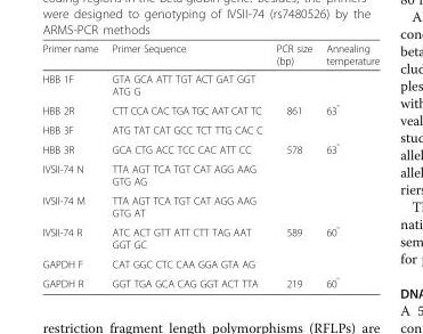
<table><thead><tr><td>Primer name</td><td>Primer Sequence</td><td>PCR size (bp)</td><td>Annealing temperature</td></tr></thead><tbody><tr><td>HBB 1F</td><td>GTA GCA ATT TGT ACT GAT GGT ATG G</td><td></td><td></td></tr><tr><td>HBB 2R</td><td>CTT CCA CAC TGA TGC AAT CAT TC</td><td>861</td><td>63<sup>°</sup></td></tr><tr><td>HBB 3F</td><td>ATG TAT CAT GCC TCT TTG CAC C</td><td></td><td></td></tr><tr><td>HBB 3R</td><td>GCA CTG ACC TCC CAC ATT CC</td><td>578</td><td>63<sup>°</sup></td></tr><tr><td>IVSII-74 N</td><td>TTA AGT TCA TGT CAT AGG AAG GTG AG</td><td></td><td></td></tr><tr><td>IVSII-74 M</td><td>TTA AGT TCA TGT CAT AGG AAG GTG AT</td><td></td><td></td></tr><tr><td>IVSII-74 R</td><td>ATC ACT GTT ATT CTT TAG AAT GGT GC</td><td>589</td><td>60<sup>°</sup></td></tr><tr><td>GAPDH F</td><td>CAT GGC CTC CAA GGA GTA AG</td><td></td><td></td></tr><tr><td>GAPDH R</td><td>GGT TGA GCA CAG GGT ACT TTA</td><td>219</td><td>60<sup>°</sup></td></tr></tbody></table>